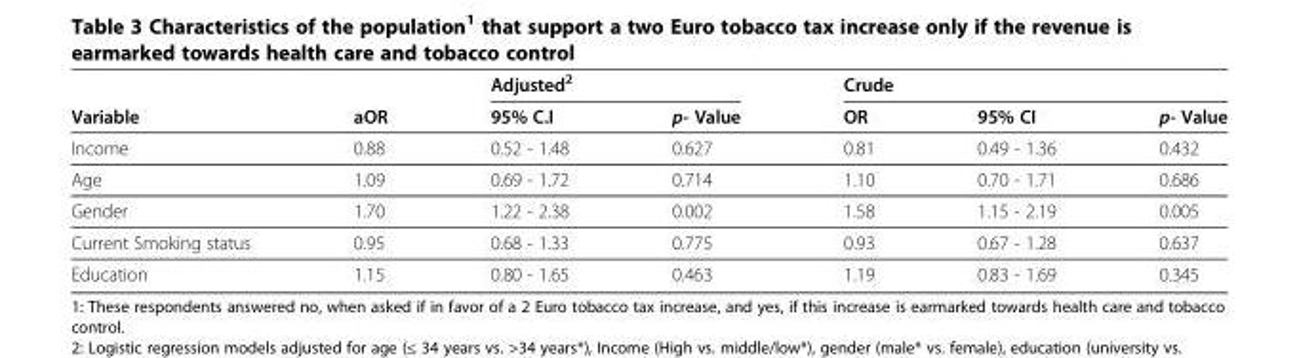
<table><thead><tr><td rowspan="2">Variable</td><td rowspan="2">aOR</td><td colspan="2">Adjusted<sup>2</sup></td><td colspan="3">Crude</td></tr><tr><td>95% C.I</td><td>p- Value</td><td>OR</td><td>95% CI</td><td>p- Value</td></tr></thead><tbody><tr><td>Income</td><td>0.88</td><td>0.52 - 1.48</td><td>0.627</td><td>0.81</td><td>0.49 - 1.36</td><td>0.432</td></tr><tr><td>Age</td><td>1.09</td><td>0.69 - 1.72</td><td>0.714</td><td>1.10</td><td>0.70 - 1.71</td><td>0.686</td></tr><tr><td>Gender</td><td>1.70</td><td>1.22 - 2.38</td><td>0.002</td><td>1.58</td><td>1.15 - 2.19</td><td>0.005</td></tr><tr><td>Current Smoking status</td><td>0.95</td><td>0.68 - 1.33</td><td>0.775</td><td>0.93</td><td>0.67 - 1.28</td><td>0.637</td></tr><tr><td>Education</td><td>1.15</td><td>0.80 - 1.65</td><td>0.463</td><td>1.19</td><td>0.83 - 1.69</td><td>0.345</td></tr></tbody></table>